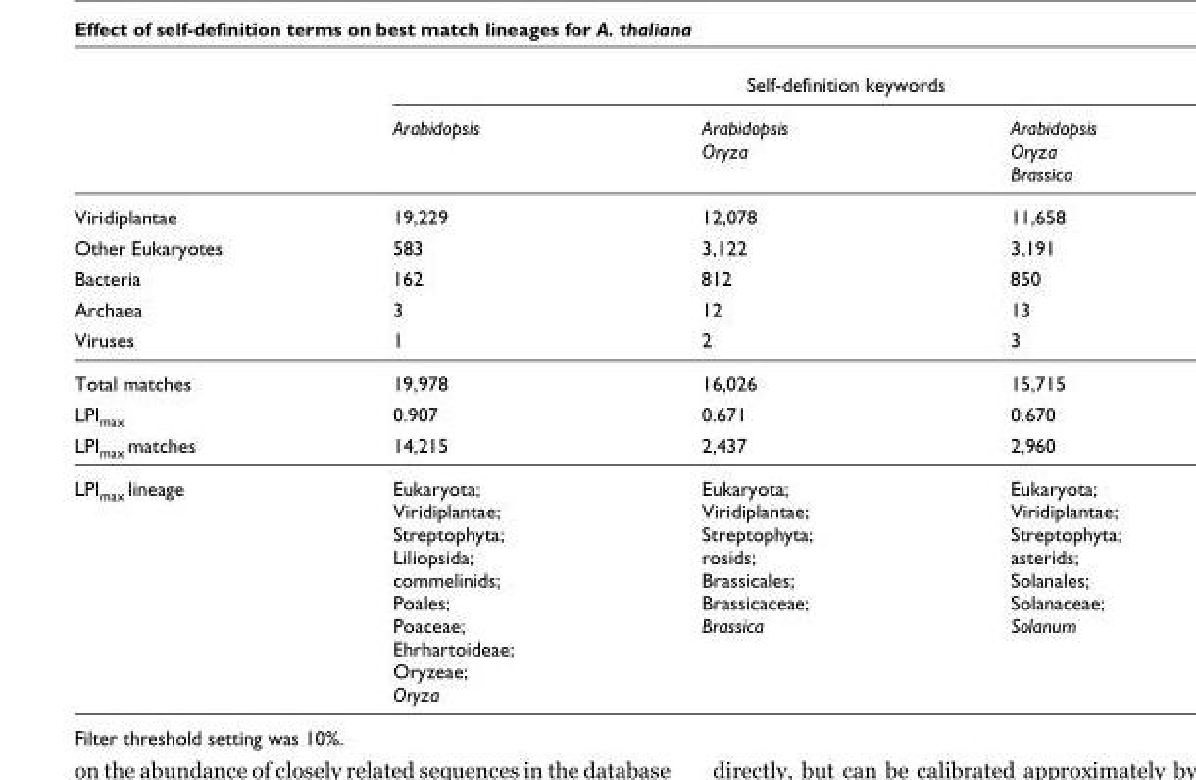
<table><thead><tr><td rowspan="2"></td><td colspan="3">Self-definition keywords</td></tr><tr><td>Arabidopsis</td><td>Arabidopsis Oryza</td><td>Arabidopsis Oryza Brassica</td></tr></thead><tbody><tr><td>Viridiplantae</td><td>19,229</td><td>12,078</td><td>11,658</td></tr><tr><td>Other Eukaryotes</td><td>583</td><td>3,122</td><td>3,191</td></tr><tr><td>Bacteria</td><td>162</td><td>812</td><td>850</td></tr><tr><td>Archaea</td><td>3</td><td>12</td><td>13</td></tr><tr><td>Viruses</td><td>1</td><td>2</td><td>3</td></tr><tr><td>Total matches</td><td>19,978</td><td>16,026</td><td>15,715</td></tr><tr><td>LPImax</td><td>0.907</td><td>0.671</td><td>0.670</td></tr><tr><td>LPImax matches</td><td>14,215</td><td>2,437</td><td>2,960</td></tr><tr><td>LPImax lineage</td><td>Eukaryota; Viridiplantae; Streptophyta; Liliopsida; commelinids; Poales; Poaceae; Ehrhartoideae; Oryzeae; Oryza</td><td>Eukaryota; Viridiplantae; Streptophyta; rosids; Brassicales; Brassicaceae; Brassica</td><td>Eukaryota; Viridiplantae; Streptophyta; asterids; Solanales; Solanaceae; Solanum</td></tr></tbody></table>